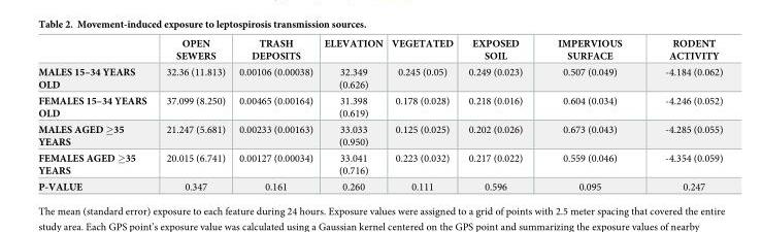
<table><thead><tr><td></td><td>OPEN SEWERS</td><td>TRASH DEPOSITS</td><td>ELEVATION</td><td>VEGETATED</td><td>EXPOSED SOIL</td><td>IMPERVIOUS SURFACE</td><td>RODENT ACTIVITY</td></tr></thead><tbody><tr><td>MALES 15–34 YEARS OLD</td><td>32.36 (11.813)</td><td>0.00106 (0.00038)</td><td>32.349 (0.626)</td><td>0.245 (0.05)</td><td>0.249 (0.023)</td><td>0.507 (0.049)</td><td>-4.184 (0.062)</td></tr><tr><td>FEMALES 15–34 YEARS OLD</td><td>37.099 (8.250)</td><td>0.00465 (0.00164)</td><td>31.398 (0.619)</td><td>0.178 (0.028)</td><td>0.218 (0.016)</td><td>0.604 (0.034)</td><td>-4.246 (0.052)</td></tr><tr><td>MALES AGED ≥35 YEARS</td><td>21.247 (5.681)</td><td>0.00233 (0.00163)</td><td>33.033 (0.950)</td><td>0.125 (0.025)</td><td>0.202 (0.026)</td><td>0.673 (0.043)</td><td>-4.285 (0.055)</td></tr><tr><td>FEMALES AGED ≥35 YEARS</td><td>20.015 (6.741)</td><td>0.00127 (0.00034)</td><td>33.041 (0.716)</td><td>0.223 (0.032)</td><td>0.217 (0.022)</td><td>0.559 (0.046)</td><td>-4.354 (0.059)</td></tr><tr><td>P-VALUE</td><td>0.347</td><td>0.161</td><td>0.260</td><td>0.111</td><td>0.596</td><td>0.095</td><td>0.247</td></tr></tbody></table>